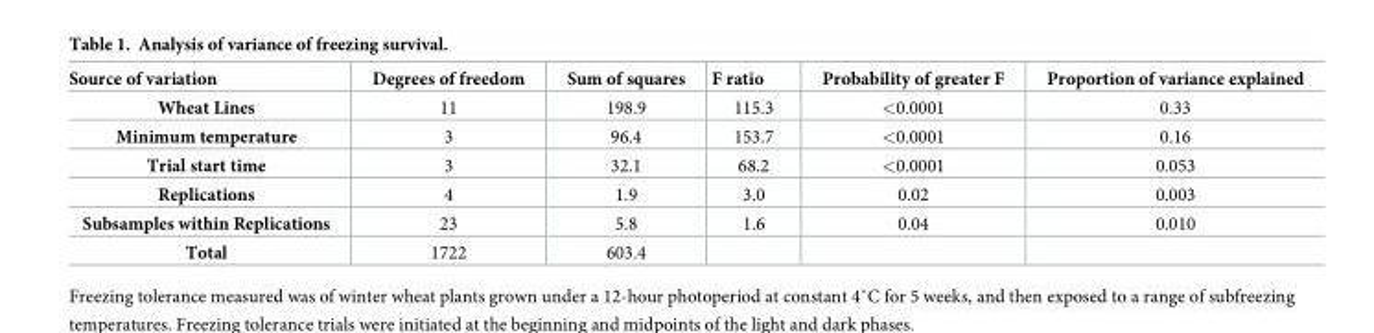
<table><thead><tr><td>Source of variation</td><td>Degrees of freedom</td><td>Sum of squares</td><td>F ratio</td><td>Probability of greater F</td><td>Proportion of variance explained</td></tr></thead><tbody><tr><td>Wheat Lines</td><td>11</td><td>198.9</td><td>115.3</td><td>&lt;0.0001</td><td>0.33</td></tr><tr><td>Minimum temperature</td><td>3</td><td>96.4</td><td>153.7</td><td>&lt;0.0001</td><td>0.16</td></tr><tr><td>Trial start time</td><td>3</td><td>32.1</td><td>68.2</td><td>&lt;0.0001</td><td>0.053</td></tr><tr><td>Replications</td><td>4</td><td>1.9</td><td>3.0</td><td>0.02</td><td>0.003</td></tr><tr><td>Subsamples within Replications</td><td>23</td><td>5.8</td><td>1.6</td><td>0.04</td><td>0.010</td></tr><tr><td>Total</td><td>1722</td><td>603.4</td><td></td><td></td><td></td></tr></tbody></table>